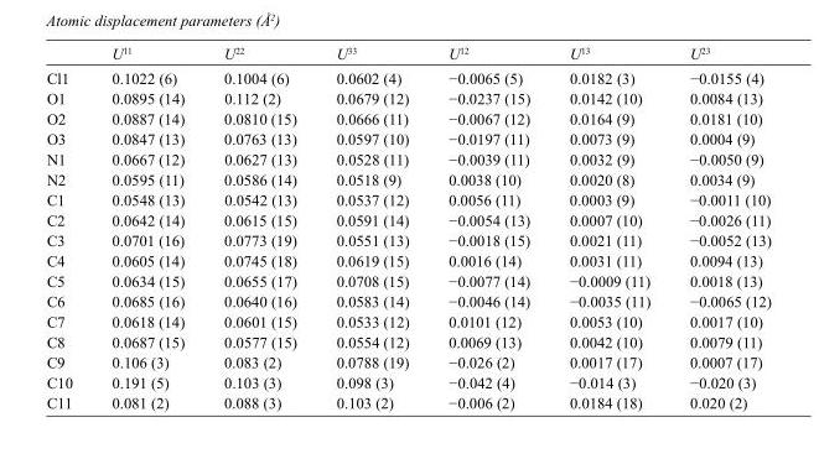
<table><thead><tr><td></td><td>U<sup>11</sup></td><td>U<sup>22</sup></td><td>U<sup>33</sup></td><td>U<sup>12</sup></td><td>U<sup>13</sup></td><td>U<sup>23</sup></td></tr></thead><tbody><tr><td>Cl1</td><td>0.1022 (6)</td><td>0.1004 (6)</td><td>0.0602 (4)</td><td>−0.0065 (5)</td><td>0.0182 (3)</td><td>−0.0155 (4)</td></tr><tr><td>O1</td><td>0.0895 (14)</td><td>0.112 (2)</td><td>0.0679 (12)</td><td>−0.0237 (15)</td><td>0.0142 (10)</td><td>0.0084 (13)</td></tr><tr><td>O2</td><td>0.0887 (14)</td><td>0.0810 (15)</td><td>0.0666 (11)</td><td>−0.0067 (12)</td><td>0.0164 (9)</td><td>0.0181 (10)</td></tr><tr><td>O3</td><td>0.0847 (13)</td><td>0.0763 (13)</td><td>0.0597 (10)</td><td>−0.0197 (11)</td><td>0.0073 (9)</td><td>0.0004 (9)</td></tr><tr><td>N1</td><td>0.0667 (12)</td><td>0.0627 (13)</td><td>0.0528 (11)</td><td>−0.0039 (11)</td><td>0.0032 (9)</td><td>−0.0050 (9)</td></tr><tr><td>N2</td><td>0.0595 (11)</td><td>0.0586 (14)</td><td>0.0518 (9)</td><td>0.0038 (10)</td><td>0.0020 (8)</td><td>0.0034 (9)</td></tr><tr><td>C1</td><td>0.0548 (13)</td><td>0.0542 (13)</td><td>0.0537 (12)</td><td>0.0056 (11)</td><td>0.0003 (9)</td><td>−0.0011 (10)</td></tr><tr><td>C2</td><td>0.0642 (14)</td><td>0.0615 (15)</td><td>0.0591 (14)</td><td>−0.0054 (13)</td><td>0.0007 (10)</td><td>−0.0026 (11)</td></tr><tr><td>C3</td><td>0.0701 (16)</td><td>0.0773 (19)</td><td>0.0551 (13)</td><td>−0.0018 (15)</td><td>0.0021 (11)</td><td>−0.0052 (13)</td></tr><tr><td>C4</td><td>0.0605 (14)</td><td>0.0745 (18)</td><td>0.0619 (15)</td><td>0.0016 (14)</td><td>0.0031 (11)</td><td>0.0094 (13)</td></tr><tr><td>C5</td><td>0.0634 (15)</td><td>0.0655 (17)</td><td>0.0708 (15)</td><td>−0.0077 (14)</td><td>−0.0009 (11)</td><td>0.0018 (13)</td></tr><tr><td>C6</td><td>0.0685 (16)</td><td>0.0640 (16)</td><td>0.0583 (14)</td><td>−0.0046 (14)</td><td>−0.0035 (11)</td><td>−0.0065 (12)</td></tr><tr><td>C7</td><td>0.0618 (14)</td><td>0.0601 (15)</td><td>0.0533 (12)</td><td>0.0101 (12)</td><td>0.0053 (10)</td><td>0.0017 (10)</td></tr><tr><td>C8</td><td>0.0687 (15)</td><td>0.0577 (15)</td><td>0.0554 (12)</td><td>0.0069 (13)</td><td>0.0042 (10)</td><td>0.0079 (11)</td></tr><tr><td>C9</td><td>0.106 (3)</td><td>0.083 (2)</td><td>0.0788 (19)</td><td>−0.026 (2)</td><td>0.0017 (17)</td><td>0.0007 (17)</td></tr><tr><td>C10</td><td>0.191 (5)</td><td>0.103 (3)</td><td>0.098 (3)</td><td>−0.042 (4)</td><td>−0.014 (3)</td><td>−0.020 (3)</td></tr><tr><td>C11</td><td>0.081 (2)</td><td>0.088 (3)</td><td>0.103 (2)</td><td>−0.006 (2)</td><td>0.0184 (18)</td><td>0.020 (2)</td></tr></tbody></table>